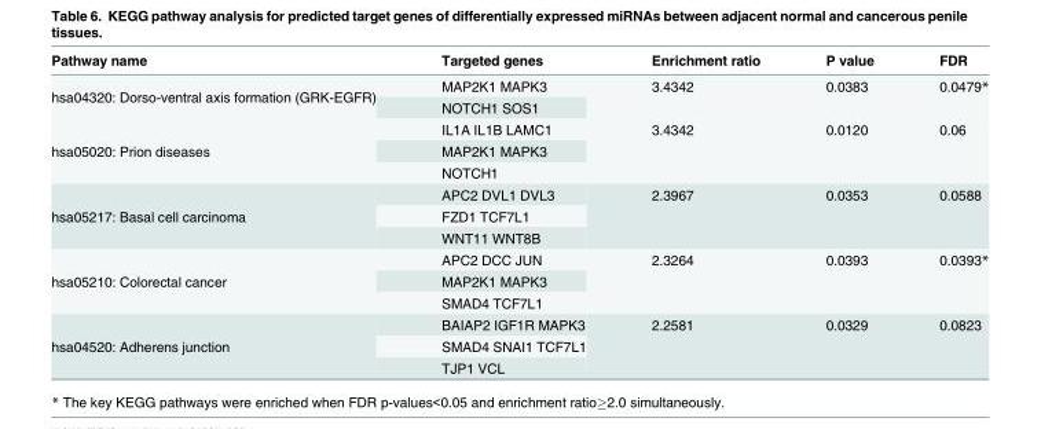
<table><thead><tr><td>Pathway name</td><td>Targeted genes</td><td>Enrichment ratio</td><td>P value</td><td>FDR</td></tr></thead><tbody><tr><td rowspan="2">hsa04320: Dorso-ventral axis formation (GRK-EGFR)</td><td>MAP2K1 MAPK3</td><td rowspan="2">3.4342</td><td rowspan="2">0.0383</td><td rowspan="2">0.0479*</td></tr><tr><td>NOTCH1 SOS1</td></tr><tr><td rowspan="3">hsa05020: Prion diseases</td><td>IL1A IL1B LAMC1</td><td rowspan="3">3.4342</td><td rowspan="3">0.0120</td><td rowspan="3">0.06</td></tr><tr><td>MAP2K1 MAPK3</td></tr><tr><td>NOTCH1</td></tr><tr><td rowspan="3">hsa05217: Basal cell carcinoma</td><td>APC2 DVL1 DVL3</td><td rowspan="3">2.3967</td><td rowspan="3">0.0353</td><td rowspan="3">0.0588</td></tr><tr><td>FZD1 TCF7L1</td></tr><tr><td>WNT11 WNT8B</td></tr><tr><td rowspan="3">hsa05210: Colorectal cancer</td><td>APC2 DCC JUN</td><td rowspan="3">2.3264</td><td rowspan="3">0.0393</td><td rowspan="3">0.0393*</td></tr><tr><td>MAP2K1 MAPK3</td></tr><tr><td>SMAD4 TCF7L1</td></tr><tr><td rowspan="3">hsa04520: Adherens junction</td><td>BAIAP2 IGF1R MAPK3</td><td rowspan="3">2.2581</td><td rowspan="3">0.0329</td><td rowspan="3">0.0823</td></tr><tr><td>SMAD4 SNAI1 TCF7L1</td></tr><tr><td>TJP1 VCL</td></tr></tbody></table>